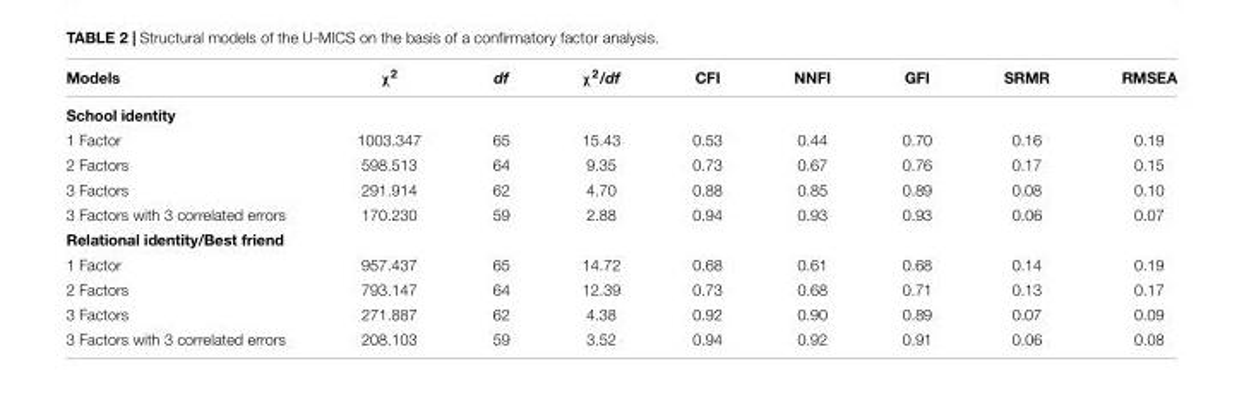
<table><thead><tr><td>Models</td><td>χ<sup>2</sup></td><td>df</td><td>χ<sup>2</sup>/df</td><td>CFI</td><td>NNFI</td><td>GFI</td><td>SRMR</td><td>RMSEA</td></tr></thead><tbody><tr><td colspan="9">School identity</td></tr><tr><td>1 Factor</td><td>1003.347</td><td>65</td><td>15.43</td><td>0.53</td><td>0.44</td><td>0.70</td><td>0.16</td><td>0.19</td></tr><tr><td>2 Factors</td><td>598.513</td><td>64</td><td>9.35</td><td>0.73</td><td>0.67</td><td>0.76</td><td>0.17</td><td>0.15</td></tr><tr><td>3 Factors</td><td>291.914</td><td>62</td><td>4.70</td><td>0.88</td><td>0.85</td><td>0.89</td><td>0.08</td><td>0.10</td></tr><tr><td>3 Factors with 3 correlated errors</td><td>170.230</td><td>59</td><td>2.88</td><td>0.94</td><td>0.93</td><td>0.93</td><td>0.06</td><td>0.07</td></tr><tr><td colspan="9">Relational identity/Best friend</td></tr><tr><td>1 Factor</td><td>957.437</td><td>65</td><td>14.72</td><td>0.68</td><td>0.61</td><td>0.68</td><td>0.14</td><td>0.19</td></tr><tr><td>2 Factors</td><td>793.147</td><td>64</td><td>12.39</td><td>0.73</td><td>0.68</td><td>0.71</td><td>0.13</td><td>0.17</td></tr><tr><td>3 Factors</td><td>271.887</td><td>62</td><td>4.38</td><td>0.92</td><td>0.90</td><td>0.89</td><td>0.07</td><td>0.09</td></tr><tr><td>3 Factors with 3 correlated errors</td><td>208.103</td><td>59</td><td>3.52</td><td>0.94</td><td>0.92</td><td>0.91</td><td>0.06</td><td>0.08</td></tr></tbody></table>